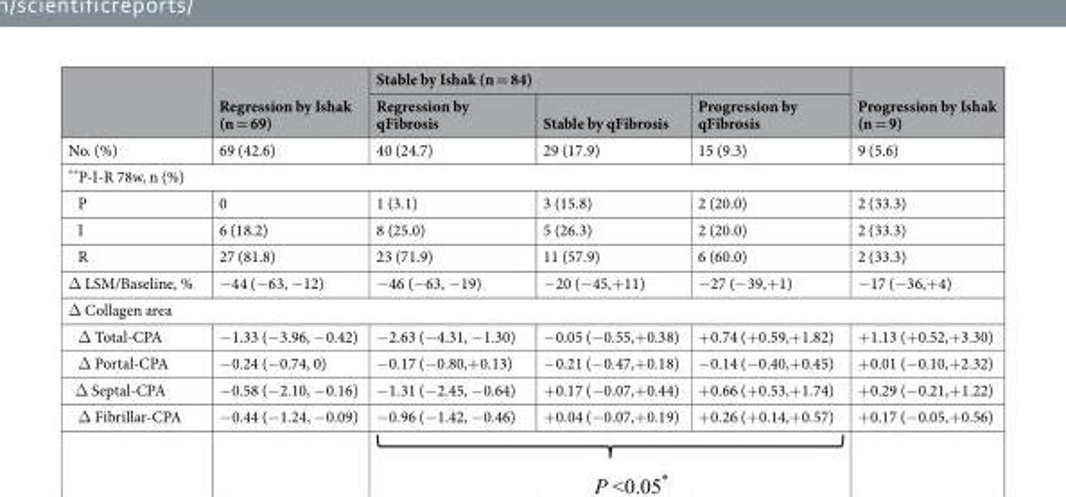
<table><thead><tr><td rowspan="2"></td><td rowspan="2">Regression by Ishak (n = 69)</td><td colspan="3">Stable by Ishak (n = 84)</td><td rowspan="2">Progression by Ishak (n = 9)</td></tr><tr><td>Regression by qFibrosis</td><td>Stable by qFibrosis</td><td>Progression by qFibrosis</td></tr></thead><tbody><tr><td>No. (%)</td><td>69 (42.6)</td><td>40 (24.7)</td><td>29 (17.9)</td><td>15 (9.3)</td><td>9 (5.6)</td></tr><tr><td colspan="6">**P-I-R 78w, n (%)</td></tr><tr><td>P</td><td>0</td><td>1 (3.1)</td><td>3 (15.8)</td><td>2 (20.0)</td><td>2 (33.3)</td></tr><tr><td>I</td><td>6 (18.2)</td><td>8 (25.0)</td><td>5 (26.3)</td><td>2 (20.0)</td><td>2 (33.3)</td></tr><tr><td>R</td><td>27 (81.8)</td><td>23 (71.9)</td><td>11 (57.9)</td><td>6 (60.0)</td><td>2 (33.3)</td></tr><tr><td>Δ LSM/Baseline, %</td><td>−44 (−63, −12)</td><td>−46 (−63, −19)</td><td>−20 (−45,+11)</td><td>−27 (−39,+1)</td><td>−17 (−36,+4)</td></tr><tr><td colspan="6">Δ Collagen area</td></tr><tr><td>Δ Total-CPA</td><td>−1.33 (−3.96, −0.42)</td><td>−2.63 (−4.31, −1.30)</td><td>−0.05 (−0.55,+0.38)</td><td>+0.74 (+0.59,+1.82)</td><td>+1.13 (+0.52,+3.30)</td></tr><tr><td>Δ Portal-CPA</td><td>−0.24 (−0.74, 0)</td><td>−0.17 (−0.80,+0.13)</td><td>−0.21 (−0.47,+0.18)</td><td>−0.14 (−0.40,+0.45)</td><td>+0.01 (−0.10,+2.32)</td></tr><tr><td>Δ Septal-CPA</td><td>−0.58 (−2.10, −0.16)</td><td>−1.31 (−2.45, −0.64)</td><td>+0.17 (−0.07,+0.44)</td><td>+0.66 (+0.53,+1.74)</td><td>+0.29 (−0.21,+1.22)</td></tr><tr><td>Δ Fibrillar-CPA</td><td>−0.44 (−1.24, −0.09)</td><td>−0.96 (−1.42, −0.46)</td><td>+0.04 (−0.07,+0.19)</td><td>+0.26 (+0.14,+0.57)</td><td>+0.17 (−0.05,+0.56)</td></tr></tbody></table>